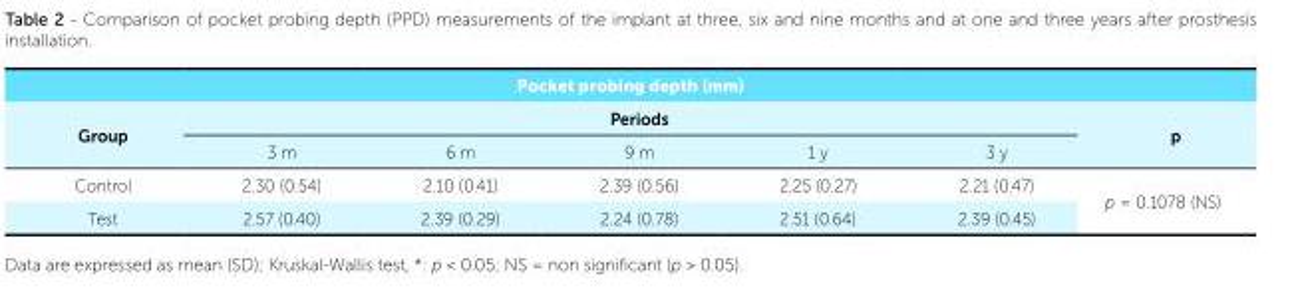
<table><thead><tr><td colspan="7">Pocket probing depth (mm)</td></tr><tr><td rowspan="2">Group</td><td colspan="5">Periods</td><td rowspan="2">p</td></tr><tr><td>3 m</td><td>6 m</td><td>9 m</td><td>1 y</td><td>3 y</td></tr></thead><tbody><tr><td>Control</td><td>2.30 (0.54)</td><td>2.10 (0.41)</td><td>2.39 (0.56)</td><td>2.25 (0.27)</td><td>2.21 (0.47)</td><td rowspan="2">p = 0.1078 (NS)</td></tr><tr><td>Test</td><td>2.57 (0.40)</td><td>2.39 (0.29)</td><td>2.24 (0.78)</td><td>2.51 (0.64)</td><td>2.39 (0.45)</td></tr></tbody></table>